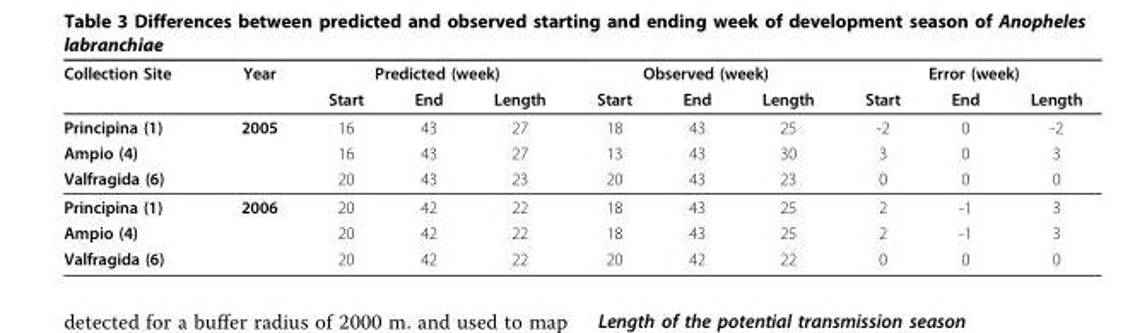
<table><thead><tr><td rowspan="2">Collection Site</td><td rowspan="2">Year</td><td colspan="3">Predicted (week)</td><td colspan="3">Observed (week)</td><td colspan="3">Error (week)</td></tr><tr><td>Start</td><td>End</td><td>Length</td><td>Start</td><td>End</td><td>Length</td><td>Start</td><td>End</td><td>Length</td></tr></thead><tbody><tr><td>Principina (1)</td><td>2005</td><td>16</td><td>43</td><td>27</td><td>18</td><td>43</td><td>25</td><td>-2</td><td>0</td><td>-2</td></tr><tr><td>Ampio (4)</td><td></td><td>16</td><td>43</td><td>27</td><td>13</td><td>43</td><td>30</td><td>3</td><td>0</td><td>3</td></tr><tr><td>Valfragida (6)</td><td></td><td>20</td><td>43</td><td>23</td><td>20</td><td>43</td><td>23</td><td>0</td><td>0</td><td>0</td></tr><tr><td>Principina (1)</td><td>2006</td><td>20</td><td>42</td><td>22</td><td>18</td><td>43</td><td>25</td><td>2</td><td>-1</td><td>3</td></tr><tr><td>Ampio (4)</td><td></td><td>20</td><td>42</td><td>22</td><td>18</td><td>43</td><td>25</td><td>2</td><td>-1</td><td>3</td></tr><tr><td>Valfragida (6)</td><td></td><td>20</td><td>42</td><td>22</td><td>20</td><td>42</td><td>22</td><td>0</td><td>0</td><td>0</td></tr></tbody></table>